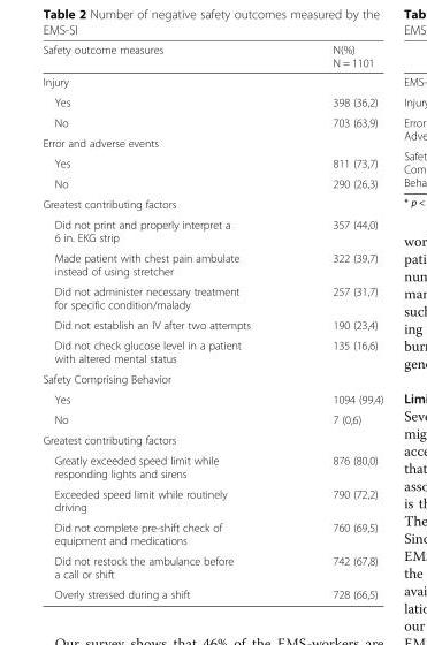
<table><thead><tr><td>Safety outcome measures</td><td>N(%) N = 1101</td></tr></thead><tbody><tr><td colspan="2">Injury</td></tr><tr><td>Yes</td><td>398 (36,2)</td></tr><tr><td>No</td><td>703 (63,9)</td></tr><tr><td colspan="2">Error and adverse events</td></tr><tr><td>Yes</td><td>811 (73,7)</td></tr><tr><td>No</td><td>290 (26,3)</td></tr><tr><td colspan="2">Greatest contributing factors</td></tr><tr><td>Did not print and properly interpret a 6 in. EKG strip</td><td>357 (44,0)</td></tr><tr><td>Made patient with chest pain ambulate instead of using stretcher</td><td>322 (39,7)</td></tr><tr><td>Did not administer necessary treatment for specific condition/malady</td><td>257 (31,7)</td></tr><tr><td>Did not establish an IV after two attempts</td><td>190 (23,4)</td></tr><tr><td>Did not check glucose level in a patient with altered mental status</td><td>135 (16,6)</td></tr><tr><td colspan="2">Safety Comprising Behavior</td></tr><tr><td>Yes</td><td>1094 (99,4)</td></tr><tr><td>No</td><td>7 (0,6)</td></tr><tr><td colspan="2">Greatest contributing factors</td></tr><tr><td>Greatly exceeded speed limit while responding lights and sirens</td><td>876 (80,0)</td></tr><tr><td>Exceeded speed limit while routinely driving</td><td>790 (72,2)</td></tr><tr><td>Did not complete pre-shift check of equipment and medications</td><td>760 (69,5)</td></tr><tr><td>Did not restock the ambulance before a call or shift</td><td>742 (67,8)</td></tr><tr><td>Overly stressed during a shift</td><td>728 (66,5)</td></tr></tbody></table>